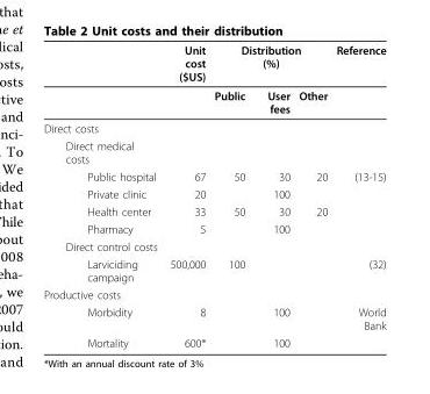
<table><thead><tr><td rowspan="2"></td><td rowspan="2">Unit cost ($US)</td><td colspan="3">Distribution (%)</td><td rowspan="2">Reference</td></tr><tr><td>Public</td><td>User fees</td><td>Other</td></tr></thead><tbody><tr><td colspan="6">Direct costs</td></tr><tr><td colspan="6">Direct medical costs</td></tr><tr><td>Public hospital</td><td>67</td><td>50</td><td>30</td><td>20</td><td>(13-15)</td></tr><tr><td>Private clinic</td><td>20</td><td></td><td>100</td><td></td><td></td></tr><tr><td>Health center</td><td>33</td><td>50</td><td>30</td><td>20</td><td></td></tr><tr><td>Pharmacy</td><td>5</td><td></td><td>100</td><td></td><td></td></tr><tr><td colspan="6">Direct control costs</td></tr><tr><td>Larviciding campaign</td><td>500,000</td><td>100</td><td></td><td></td><td>(32)</td></tr><tr><td colspan="6">Productive costs</td></tr><tr><td>Morbidity</td><td>8</td><td></td><td>100</td><td></td><td>World Bank</td></tr><tr><td>Mortality</td><td>600*</td><td></td><td>100</td><td></td><td></td></tr></tbody></table>